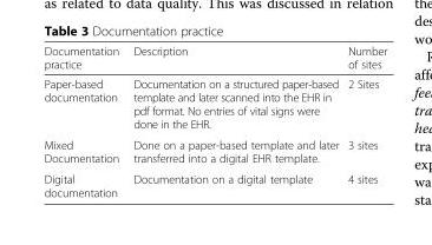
<table><thead><tr><td>Documentation practice</td><td>Description</td><td>Number of sites</td></tr></thead><tbody><tr><td>Paper-based documentation</td><td>Documentation on a structured paper-based template and later scanned into the EHR in pdf format. No entries of vital signs were done in the EHR.</td><td>2 Sites</td></tr><tr><td>Mixed Documentation</td><td>Done on a paper-based template and later transferred into a digital EHR template.</td><td>3 sites</td></tr><tr><td>Digital documentation</td><td>Documentation on a digital template</td><td>4 sites</td></tr></tbody></table>